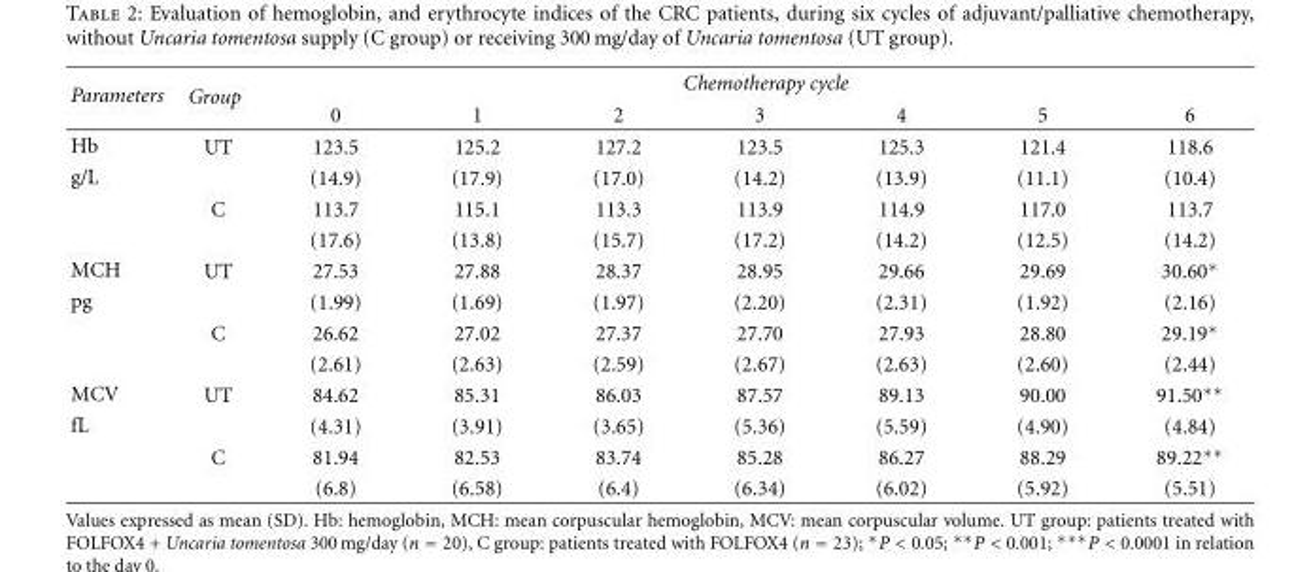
<table><thead><tr><td rowspan="2">Parameters</td><td rowspan="2">Group</td><td colspan="7">Chemotherapy cycle</td></tr><tr><td>0</td><td>1</td><td>2</td><td>3</td><td>4</td><td>5</td><td>6</td></tr></thead><tbody><tr><td>Hb</td><td>UT</td><td>123.5</td><td>125.2</td><td>127.2</td><td>123.5</td><td>125.3</td><td>121.4</td><td>118.6</td></tr><tr><td rowspan="3">g/L</td><td></td><td>(14.9)</td><td>(17.9)</td><td>(17.0)</td><td>(14.2)</td><td>(13.9)</td><td>(11.1)</td><td>(10.4)</td></tr><tr><td>C</td><td>113.7</td><td>115.1</td><td>113.3</td><td>113.9</td><td>114.9</td><td>117.0</td><td>113.7</td></tr><tr><td></td><td>(17.6)</td><td>(13.8)</td><td>(15.7)</td><td>(17.2)</td><td>(14.2)</td><td>(12.5)</td><td>(14.2)</td></tr><tr><td>MCH</td><td>UT</td><td>27.53</td><td>27.88</td><td>28.37</td><td>28.95</td><td>29.66</td><td>29.69</td><td>30.60∗</td></tr><tr><td rowspan="3">pg</td><td></td><td>(1.99)</td><td>(1.69)</td><td>(1.97)</td><td>(2.20)</td><td>(2.31)</td><td>(1.92)</td><td>(2.16)</td></tr><tr><td>C</td><td>26.62</td><td>27.02</td><td>27.37</td><td>27.70</td><td>27.93</td><td>28.80</td><td>29.19∗</td></tr><tr><td></td><td>(2.61)</td><td>(2.63)</td><td>(2.59)</td><td>(2.67)</td><td>(2.63)</td><td>(2.60)</td><td>(2.44)</td></tr><tr><td>MCV</td><td>UT</td><td>84.62</td><td>85.31</td><td>86.03</td><td>87.57</td><td>89.13</td><td>90.00</td><td>91.50∗∗</td></tr><tr><td rowspan="3">fL</td><td></td><td>(4.31)</td><td>(3.91)</td><td>(3.65)</td><td>(5.36)</td><td>(5.59)</td><td>(4.90)</td><td>(4.84)</td></tr><tr><td>C</td><td>81.94</td><td>82.53</td><td>83.74</td><td>85.28</td><td>86.27</td><td>88.29</td><td>89.22∗∗</td></tr><tr><td></td><td>(6.8)</td><td>(6.58)</td><td>(6.4)</td><td>(6.34)</td><td>(6.02)</td><td>(5.92)</td><td>(5.51)</td></tr></tbody></table>